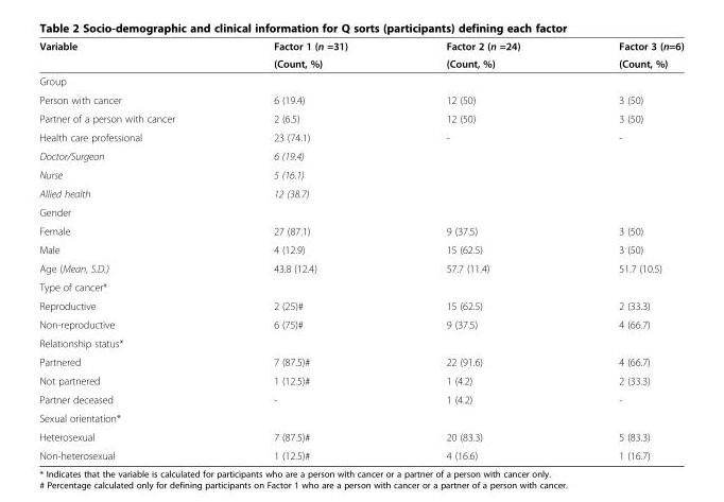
<table><thead><tr><td rowspan="2">Variable</td><td rowspan="2">Factor 1 (n =31) (Count, %)</td><td rowspan="2">Factor 2 (n =24) (Count, %)</td><td rowspan="2">Factor 3 (n=6) (Count, %)</td></tr><tr></tr></thead><tbody><tr><td colspan="4">Group</td></tr><tr><td>Person with cancer</td><td>6 (19.4)</td><td>12 (50)</td><td>3 (50)</td></tr><tr><td>Partner of a person with cancer</td><td>2 (6.5)</td><td>12 (50)</td><td>3 (50)</td></tr><tr><td>Health care professional</td><td>23 (74.1)</td><td>-</td><td>-</td></tr><tr><td>Doctor/Surgeon</td><td>6 (19.4)</td><td></td><td></td></tr><tr><td>Nurse</td><td>5 (16.1)</td><td></td><td></td></tr><tr><td>Allied health</td><td>12 (38.7)</td><td></td><td></td></tr><tr><td colspan="4">Gender</td></tr><tr><td>Female</td><td>27 (87.1)</td><td>9 (37.5)</td><td>3 (50)</td></tr><tr><td>Male</td><td>4 (12.9)</td><td>15 (62.5)</td><td>3 (50)</td></tr><tr><td>Age (Mean, S.D.)</td><td>43.8 (12.4)</td><td>57.7 (11.4)</td><td>51.7 (10.5)</td></tr><tr><td colspan="4">Type of cancer*</td></tr><tr><td>Reproductive</td><td>2 (25)#</td><td>15 (62.5)</td><td>2 (33.3)</td></tr><tr><td>Non-reproductive</td><td>6 (75)#</td><td>9 (37.5)</td><td>4 (66.7)</td></tr><tr><td colspan="4">Relationship status*</td></tr><tr><td>Partnered</td><td>7 (87.5)#</td><td>22 (91.6)</td><td>4 (66.7)</td></tr><tr><td>Not partnered</td><td>1 (12.5)#</td><td>1 (4.2)</td><td>2 (33.3)</td></tr><tr><td>Partner deceased</td><td>-</td><td>1 (4.2)</td><td>-</td></tr><tr><td colspan="4">Sexual orientation*</td></tr><tr><td>Heterosexual</td><td>7 (87.5)#</td><td>20 (83.3)</td><td>5 (83.3)</td></tr><tr><td>Non-heterosexual</td><td>1 (12.5)#</td><td>4 (16.6)</td><td>1 (16.7)</td></tr></tbody></table>